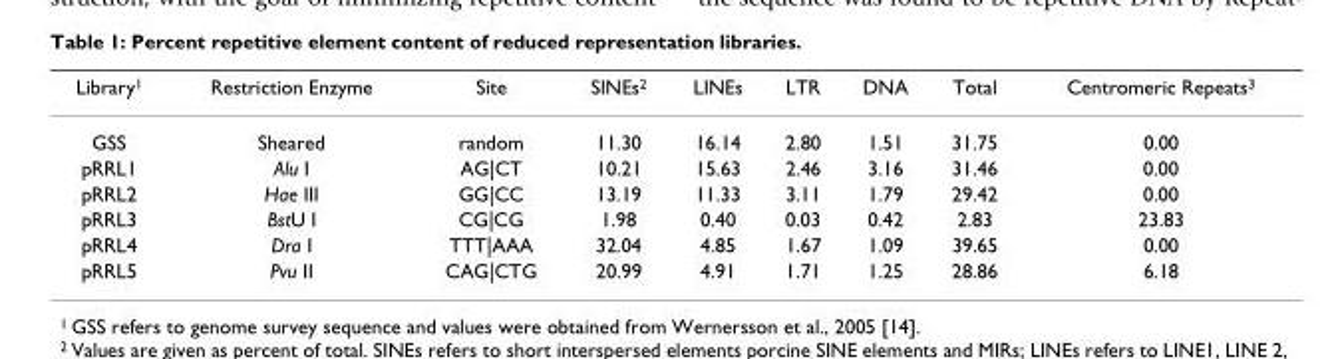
<table><thead><tr><td>Library<sup>1</sup></td><td>Restriction Enzyme</td><td>Site</td><td>SINEs<sup>2</sup></td><td>LINEs</td><td>LTR</td><td>DNA</td><td>Total</td><td>Centromeric Repeats<sup>3</sup></td></tr></thead><tbody><tr><td>GSS</td><td>Sheared</td><td>random</td><td>11.30</td><td>16.14</td><td>2.80</td><td>1.51</td><td>31.75</td><td>0.00</td></tr><tr><td>pRRL1</td><td>Alu I</td><td>AG|CT</td><td>10.21</td><td>15.63</td><td>2.46</td><td>3.16</td><td>31.46</td><td>0.00</td></tr><tr><td>pRRL2</td><td>Hae III</td><td>GG|CC</td><td>13.19</td><td>11.33</td><td>3.11</td><td>1.79</td><td>29.42</td><td>0.00</td></tr><tr><td>pRRL3</td><td>BstU I</td><td>CG|CG</td><td>1.98</td><td>0.40</td><td>0.03</td><td>0.42</td><td>2.83</td><td>23.83</td></tr><tr><td>pRRL4</td><td>Dra I</td><td>TTT|AAA</td><td>32.04</td><td>4.85</td><td>1.67</td><td>1.09</td><td>39.65</td><td>0.00</td></tr><tr><td>pRRL5</td><td>Pvu II</td><td>CAG|CTG</td><td>20.99</td><td>4.91</td><td>1.71</td><td>1.25</td><td>28.86</td><td>6.18</td></tr></tbody></table>